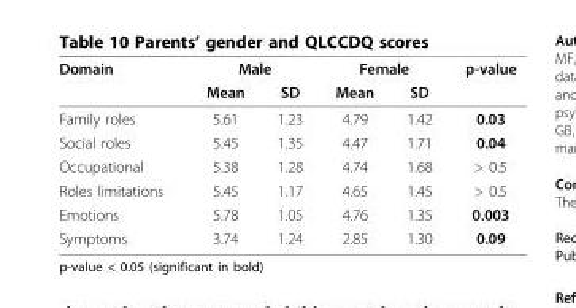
<table><thead><tr><td rowspan="2">Domain</td><td colspan="2">Male</td><td colspan="2">Female</td><td rowspan="2">p-value</td></tr><tr><td>Mean</td><td>SD</td><td>Mean</td><td>SD</td></tr></thead><tbody><tr><td>Family roles</td><td>5.61</td><td>1.23</td><td>4.79</td><td>1.42</td><td>0.03</td></tr><tr><td>Social roles</td><td>5.45</td><td>1.35</td><td>4.47</td><td>1.71</td><td>0.04</td></tr><tr><td>Occupational</td><td>5.38</td><td>1.28</td><td>4.74</td><td>1.68</td><td>&gt; 0.5</td></tr><tr><td>Roles limitations</td><td>5.45</td><td>1.17</td><td>4.65</td><td>1.45</td><td>&gt; 0.5</td></tr><tr><td>Emotions</td><td>5.78</td><td>1.05</td><td>4.76</td><td>1.35</td><td>0.003</td></tr><tr><td>Symptoms</td><td>3.74</td><td>1.24</td><td>2.85</td><td>1.30</td><td>0.09</td></tr></tbody></table>